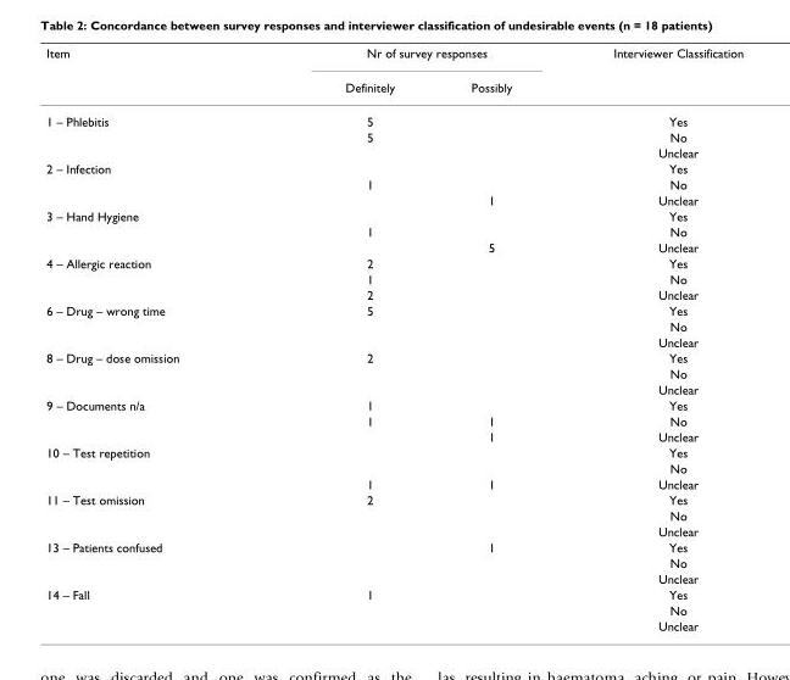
<table><thead><tr><td rowspan="2">Item</td><td colspan="2">Nr of survey responses</td><td rowspan="2">Interviewer Classification</td></tr><tr><td>Definitely</td><td>Possibly</td></tr></thead><tbody><tr><td rowspan="3">1 – Phlebitis</td><td>5</td><td></td><td>Yes</td></tr><tr><td>5</td><td></td><td>No</td></tr><tr><td></td><td></td><td>Unclear</td></tr><tr><td rowspan="3">2 – Infection</td><td></td><td></td><td>Yes</td></tr><tr><td>1</td><td></td><td>No</td></tr><tr><td></td><td>1</td><td>Unclear</td></tr><tr><td rowspan="3">3 – Hand Hygiene</td><td></td><td></td><td>Yes</td></tr><tr><td>1</td><td></td><td>No</td></tr><tr><td></td><td>5</td><td>Unclear</td></tr><tr><td rowspan="3">4 – Allergic reaction</td><td>2</td><td></td><td>Yes</td></tr><tr><td>1</td><td></td><td>No</td></tr><tr><td>2</td><td></td><td>Unclear</td></tr><tr><td rowspan="3">6 – Drug – wrong time</td><td>5</td><td></td><td>Yes</td></tr><tr><td></td><td></td><td>No</td></tr><tr><td></td><td></td><td>Unclear</td></tr><tr><td rowspan="3">8 – Drug – dose omission</td><td>2</td><td></td><td>Yes</td></tr><tr><td></td><td></td><td>No</td></tr><tr><td></td><td></td><td>Unclear</td></tr><tr><td rowspan="3">9 – Documents n/a</td><td>1</td><td></td><td>Yes</td></tr><tr><td>1</td><td>1</td><td>No</td></tr><tr><td></td><td>1</td><td>Unclear</td></tr><tr><td rowspan="3">10 – Test repetition</td><td></td><td></td><td>Yes</td></tr><tr><td></td><td></td><td>No</td></tr><tr><td>1</td><td>1</td><td>Unclear</td></tr><tr><td rowspan="3">11 – Test omission</td><td>2</td><td></td><td>Yes</td></tr><tr><td></td><td></td><td>No</td></tr><tr><td></td><td></td><td>Unclear</td></tr><tr><td rowspan="3">13 – Patients confused</td><td></td><td>1</td><td>Yes</td></tr><tr><td></td><td></td><td>No</td></tr><tr><td></td><td></td><td>Unclear</td></tr><tr><td rowspan="3">14 – Fall</td><td>1</td><td></td><td>Yes</td></tr><tr><td></td><td></td><td>No</td></tr><tr><td></td><td></td><td>Unclear</td></tr></tbody></table>